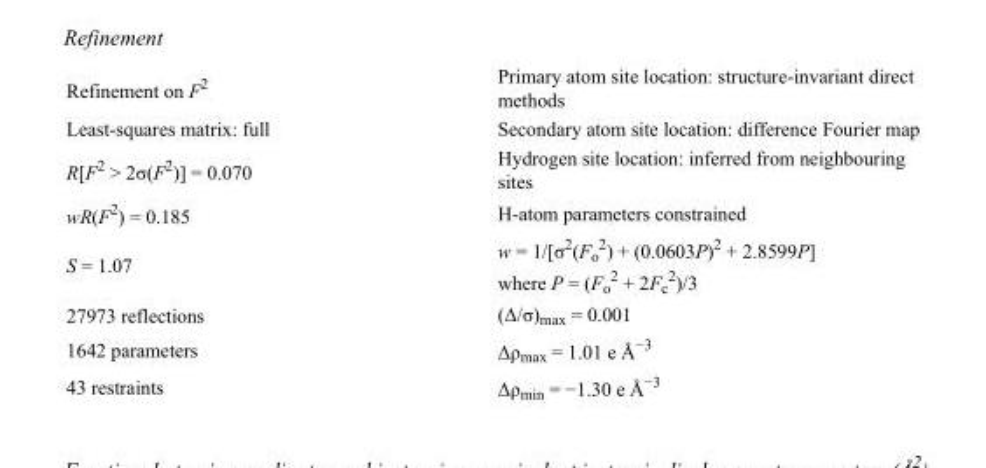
<table><tbody><tr><td>Refinement on F<sup>2</sup></td><td>Primary atom site location: structure-invariant direct methods</td></tr><tr><td>Least-squares matrix: full</td><td>Secondary atom site location: difference Fourier map</td></tr><tr><td>R[F<sup>2</sup> &gt; 2σ(F<sup>2</sup>)] = 0.070</td><td>Hydrogen site location: inferred from neighbouring sites</td></tr><tr><td>wR(F<sup>2</sup>) = 0.185</td><td>H-atom parameters constrained</td></tr><tr><td>S = 1.07</td><td>w = 1/[σ<sup>2</sup>(F<sub>o</sub> <sup>2</sup>) + (0.0603P)<sup>2</sup> + 2.8599P] where P = (F<sub>o</sub> <sup>2</sup> + 2F<sub>c</sub> <sup>2</sup>)/3</td></tr><tr><td>27973 reflections</td><td>(Δ/σ)<sub>max</sub> = 0.001</td></tr><tr><td>1642 parameters</td><td>Δρ<sub>max</sub> = 1.01 e Å<sup>−3</sup></td></tr><tr><td>43 restraints</td><td>Δρ<sub>min</sub> = −1.30 e Å<sup>−3</sup></td></tr></tbody></table>